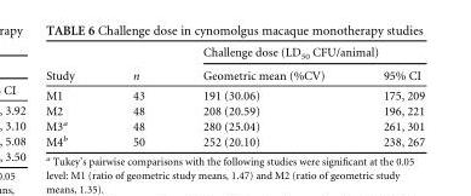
<table><thead><tr><td rowspan="2">Study</td><td rowspan="2">n</td><td colspan="2">Challenge dose (LD<sub>50</sub> CFU/animal)</td></tr><tr><td>Geometric mean (%CV)</td><td>95% CI</td></tr></thead><tbody><tr><td>M1</td><td>43</td><td>191 (30.06)</td><td>175, 209</td></tr><tr><td>M2</td><td>48</td><td>208 (20.59)</td><td>196, 221</td></tr><tr><td>M3<sup>a</sup></td><td>48</td><td>280 (25.04)</td><td>261, 301</td></tr><tr><td>M4<sup>b</sup></td><td>50</td><td>252 (20.10)</td><td>238, 267</td></tr></tbody></table>